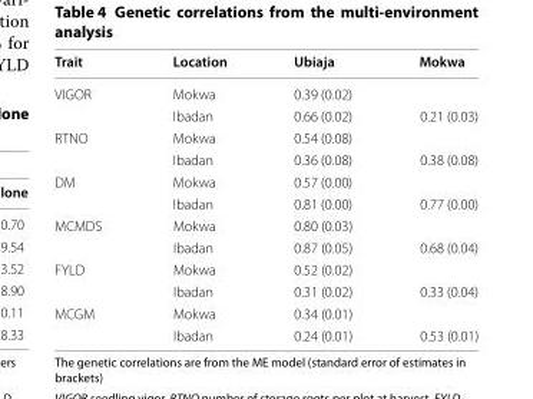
<table><thead><tr><td>Trait</td><td>Location</td><td>Ubiaja</td><td>Mokwa</td></tr></thead><tbody><tr><td rowspan="2">VIGOR</td><td>Mokwa</td><td>0.39 (0.02)</td><td></td></tr><tr><td>Ibadan</td><td>0.66 (0.02)</td><td>0.21 (0.03)</td></tr><tr><td rowspan="2">RTNO</td><td>Mokwa</td><td>0.54 (0.08)</td><td></td></tr><tr><td>Ibadan</td><td>0.36 (0.08)</td><td>0.38 (0.08)</td></tr><tr><td rowspan="2">DM</td><td>Mokwa</td><td>0.57 (0.00)</td><td></td></tr><tr><td>Ibadan</td><td>0.81 (0.00)</td><td>0.77 (0.00)</td></tr><tr><td rowspan="2">MCMDS</td><td>Mokwa</td><td>0.80 (0.03)</td><td></td></tr><tr><td>Ibadan</td><td>0.87 (0.05)</td><td>0.68 (0.04)</td></tr><tr><td rowspan="2">FYLD</td><td>Mokwa</td><td>0.52 (0.02)</td><td></td></tr><tr><td>Ibadan</td><td>0.31 (0.02)</td><td>0.33 (0.04)</td></tr><tr><td rowspan="2">MCGM</td><td>Mokwa</td><td>0.34 (0.01)</td><td></td></tr><tr><td>Ibadan</td><td>0.24 (0.01)</td><td>0.53 (0.01)</td></tr></tbody></table>